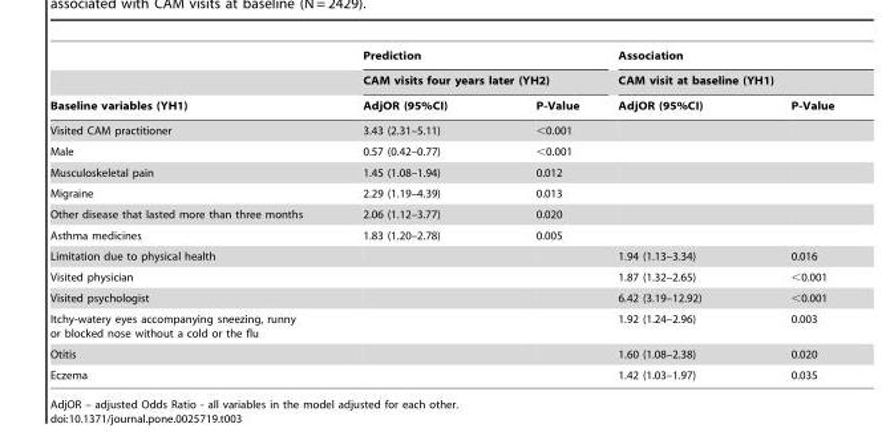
<table><thead><tr><td rowspan="3">Baseline variables (YH1)</td><td rowspan="2" colspan="2">Prediction CAM visits four years later (YH2)</td><td rowspan="2" colspan="2">Association CAM visit at baseline (YH1)</td></tr><tr></tr><tr><td>AdjOR (95%CI)</td><td>P-Value</td><td>AdjOR (95%CI)</td><td>P-Value</td></tr></thead><tbody><tr><td>Visited CAM practitioner</td><td>3.43 (2.31–5.11)</td><td>&lt;0.001</td><td></td><td></td></tr><tr><td>Male</td><td>0.57 (0.42–0.77)</td><td>&lt;0.001</td><td></td><td></td></tr><tr><td>Musculoskeletal pain</td><td>1.45 (1.08–1.94)</td><td>0.012</td><td></td><td></td></tr><tr><td>Migraine</td><td>2.29 (1.19–4.39)</td><td>0.013</td><td></td><td></td></tr><tr><td>Other disease that lasted more than three months</td><td>2.06 (1.12–3.77)</td><td>0.020</td><td></td><td></td></tr><tr><td>Asthma medicines</td><td>1.83 (1.20–2.78)</td><td>0.005</td><td></td><td></td></tr><tr><td>Limitation due to physical health</td><td></td><td></td><td>1.94 (1.13–3.34)</td><td>0.016</td></tr><tr><td>Visited physician</td><td></td><td></td><td>1.87 (1.32–2.65)</td><td>&lt;0.001</td></tr><tr><td>Visited psychologist</td><td></td><td></td><td>6.42 (3.19–12.92)</td><td>&lt;0.001</td></tr><tr><td>Itchy-watery eyes accompanying sneezing, runny or blocked nose without a cold or the flu</td><td></td><td></td><td>1.92 (1.24–2.96)</td><td>0.003</td></tr><tr><td>Otitis</td><td></td><td></td><td>1.60 (1.08–2.38)</td><td>0.020</td></tr><tr><td>Eczema</td><td></td><td></td><td>1.42 (1.03–1.97)</td><td>0.035</td></tr></tbody></table>